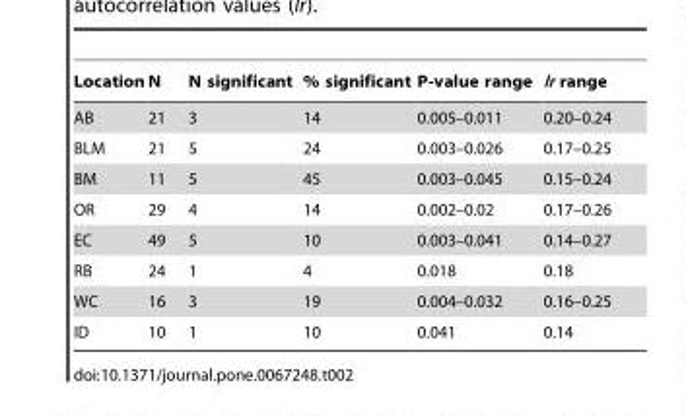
<table><thead><tr><td>Location</td><td>N</td><td>N significant</td><td>% significant</td><td>P-value range</td><td>lr range</td></tr></thead><tbody><tr><td>AB</td><td>21</td><td>3</td><td>14</td><td>0.005–0.011</td><td>0.20–0.24</td></tr><tr><td>BLM</td><td>21</td><td>5</td><td>24</td><td>0.003–0.026</td><td>0.17–0.25</td></tr><tr><td>BM</td><td>11</td><td>5</td><td>45</td><td>0.003–0.045</td><td>0.15–0.24</td></tr><tr><td>OR</td><td>29</td><td>4</td><td>14</td><td>0.002–0.02</td><td>0.17–0.26</td></tr><tr><td>EC</td><td>49</td><td>5</td><td>10</td><td>0.003–0.041</td><td>0.14–0.27</td></tr><tr><td>RB</td><td>24</td><td>1</td><td>4</td><td>0.018</td><td>0.18</td></tr><tr><td>WC</td><td>16</td><td>3</td><td>19</td><td>0.004–0.032</td><td>0.16–0.25</td></tr><tr><td>ID</td><td>10</td><td>1</td><td>10</td><td>0.041</td><td>0.14</td></tr></tbody></table>